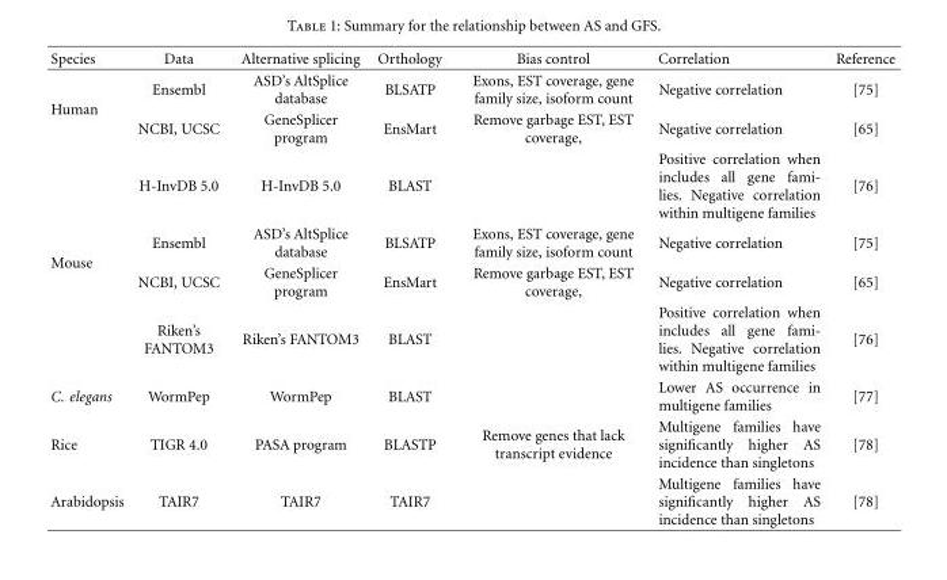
<table><thead><tr><td>Species</td><td>Data</td><td>Alternative splicing</td><td>Orthology</td><td>Bias control</td><td>Correlation</td><td>Reference</td></tr></thead><tbody><tr><td rowspan="3">Human</td><td>Ensembl</td><td>ASD’s AltSplice database</td><td>BLSATP</td><td>Exons, EST coverage, gene family size, isoform count</td><td>Negative correlation</td><td>[75]</td></tr><tr><td>NCBI, UCSC</td><td>GeneSplicer program</td><td>EnsMart</td><td>Remove garbage EST, EST coverage,</td><td>Negative correlation</td><td>[65]</td></tr><tr><td>H-InvDB 5.0</td><td>H-InvDB 5.0</td><td>BLAST</td><td></td><td>Positive correlation when includes all gene fami- lies. Negative correlation within multigene families</td><td>[76]</td></tr><tr><td rowspan="3">Mouse</td><td>Ensembl</td><td>ASD’s AltSplice database</td><td>BLSATP</td><td>Exons, EST coverage, gene family size, isoform count</td><td>Negative correlation</td><td>[75]</td></tr><tr><td>NCBI, UCSC</td><td>GeneSplicer program</td><td>EnsMart</td><td>Remove garbage EST, EST coverage,</td><td>Negative correlation</td><td>[65]</td></tr><tr><td>Riken’s FANTOM3</td><td>Riken’s FANTOM3</td><td>BLAST</td><td></td><td>Positive correlation when includes all gene fami- lies. Negative correlation within multigene families</td><td>[76]</td></tr><tr><td>C. elegans</td><td>WormPep</td><td>WormPep</td><td>BLAST</td><td></td><td>Lower AS occurrence in multigene families</td><td>[77]</td></tr><tr><td>Rice</td><td>TIGR 4.0</td><td>PASA program</td><td>BLASTP</td><td>Remove genes that lack transcript evidence</td><td>Multigene families have significantly higher AS incidence than singletons</td><td>[78]</td></tr><tr><td>Arabidopsis</td><td>TAIR7</td><td>TAIR7</td><td>TAIR7</td><td></td><td>Multigene families have significantly higher AS incidence than singletons</td><td>[78]</td></tr></tbody></table>